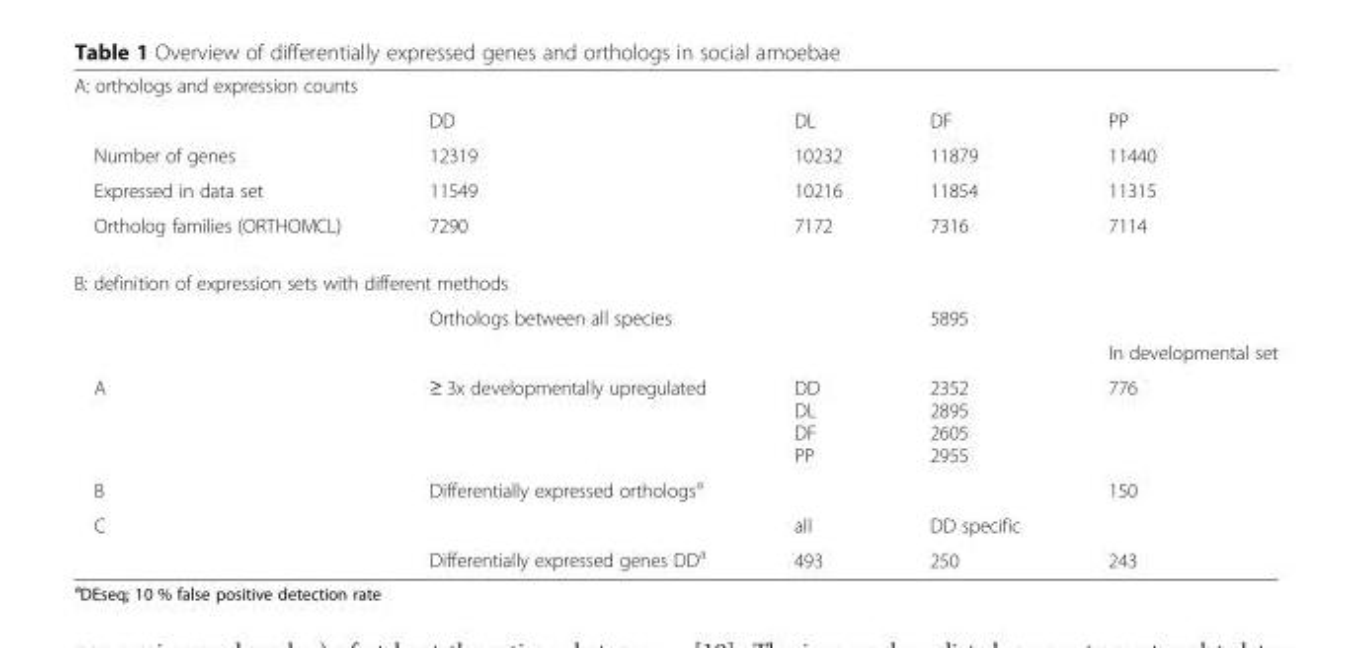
<table><tbody><tr><td colspan="5">A: orthologs and expression counts</td></tr><tr><td></td><td>DD</td><td>DL</td><td>DF</td><td>PP</td></tr><tr><td>Number of genes</td><td>12319</td><td>10232</td><td>11879</td><td>11440</td></tr><tr><td>Expressed in data set</td><td>11549</td><td>10216</td><td>11854</td><td>11315</td></tr><tr><td>Ortholog families (ORTHOMCL)</td><td>7290</td><td>7172</td><td>7316</td><td>7114</td></tr><tr><td colspan="5">B: definition of expression sets with different methods</td></tr><tr><td></td><td>Orthologs between all species</td><td></td><td>5895</td><td></td></tr><tr><td></td><td></td><td></td><td></td><td>In developmental set</td></tr><tr><td>A</td><td>≥ 3x developmentally upregulated</td><td>DD DL DF PP</td><td>2352 2895 2605 2955</td><td>776</td></tr><tr><td>B</td><td>Differentially expressed orthologs<sup>a</sup></td><td></td><td></td><td>150</td></tr><tr><td rowspan="2">C</td><td></td><td>all</td><td>DD specific</td><td></td></tr><tr><td>Differentially expressed genes DD<sup>a</sup></td><td>493</td><td>250</td><td>243</td></tr></tbody></table>